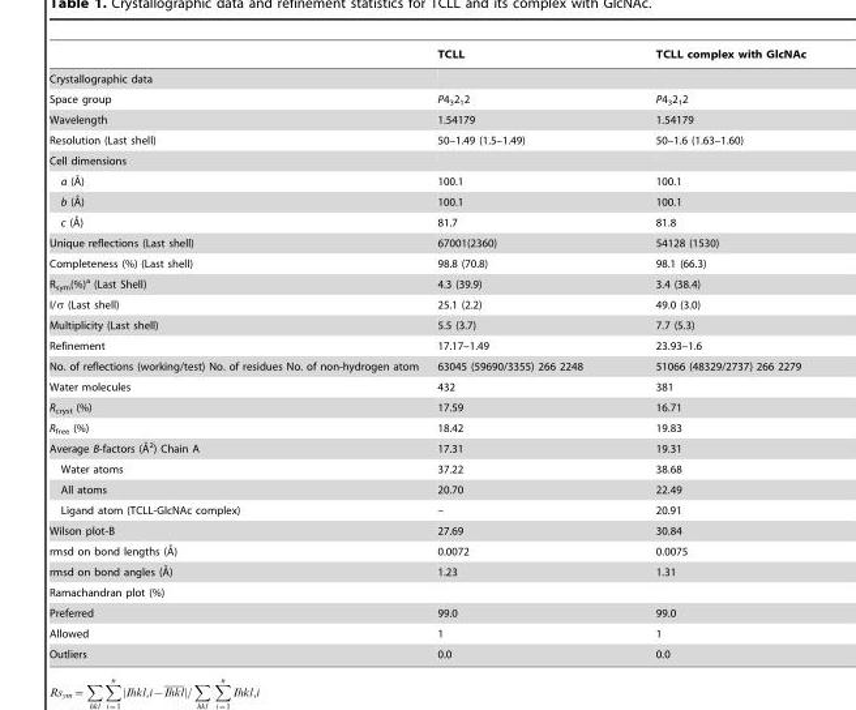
<table><thead><tr><td></td><td>TCLL</td><td>TCLL complex with GlcNAc</td></tr></thead><tbody><tr><td colspan="3">Crystallographic data</td></tr><tr><td>Space group</td><td>P4<sub>3</sub>2<sub>1</sub>2</td><td>P4<sub>3</sub>2<sub>1</sub>2</td></tr><tr><td>Wavelength</td><td>1.54179</td><td>1.54179</td></tr><tr><td>Resolution (Last shell)</td><td>50–1.49 (1.5–1.49)</td><td>50–1.6 (1.63–1.60)</td></tr><tr><td colspan="3">Cell dimensions</td></tr><tr><td>a (A˚)</td><td>100.1</td><td>100.1</td></tr><tr><td>b (A˚)</td><td>100.1</td><td>100.1</td></tr><tr><td>c (A˚)</td><td>81.7</td><td>81.8</td></tr><tr><td>Unique reflections (Last shell)</td><td>67001(2360)</td><td>54128 (1530)</td></tr><tr><td>Completeness (%) (Last shell)</td><td>98.8 (70.8)</td><td>98.1 (66.3)</td></tr><tr><td>R<sub>sym</sub>(%)<sup>a</sup> (Last Shell)</td><td>4.3 (39.9)</td><td>3.4 (38.4)</td></tr><tr><td>I/σ (Last shell)</td><td>25.1 (2.2)</td><td>49.0 (3.0)</td></tr><tr><td>Multiplicity (Last shell)</td><td>5.5 (3.7)</td><td>7.7 (5.3)</td></tr><tr><td>Refinement</td><td>17.17–1.49</td><td>23.93–1.6</td></tr><tr><td>No. of reflections (working/test) No. of residues No. of non-hydrogen atom</td><td>63045 (59690/3355) 266 2248</td><td>51066 (48329/2737) 266 2279</td></tr><tr><td>Water molecules</td><td>432</td><td>381</td></tr><tr><td>R<sub>cryst</sub> (%)</td><td>17.59</td><td>16.71</td></tr><tr><td>R<sub>free</sub> (%)</td><td>18.42</td><td>19.83</td></tr><tr><td>Average B-factors (A˚2) Chain A</td><td>17.31</td><td>19.31</td></tr><tr><td>Water atoms</td><td>37.22</td><td>38.68</td></tr><tr><td>All atoms</td><td>20.70</td><td>22.49</td></tr><tr><td>Ligand atom (TCLL-GlcNAc complex)</td><td>–</td><td>20.91</td></tr><tr><td>Wilson plot-B</td><td>27.69</td><td>30.84</td></tr><tr><td>rmsd on bond lengths (A˚)</td><td>0.0072</td><td>0.0075</td></tr><tr><td>rmsd on bond angles (A˚)</td><td>1.23</td><td>1.31</td></tr><tr><td colspan="3">Ramachandran plot (%)</td></tr><tr><td>Preferred</td><td>99.0</td><td>99.0</td></tr><tr><td>Allowed</td><td>1</td><td>1</td></tr><tr><td>Outliers</td><td>0.0</td><td>0.0</td></tr></tbody></table>